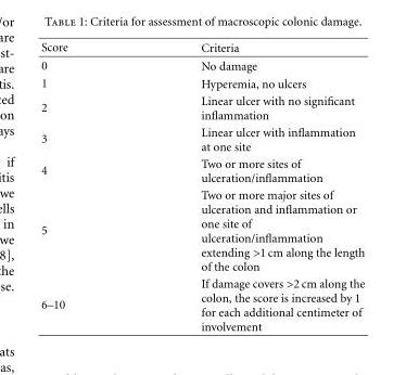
<table><thead><tr><td>Score</td><td>Criteria</td></tr></thead><tbody><tr><td>0</td><td>No damage</td></tr><tr><td>1</td><td>Hyperemia, no ulcers</td></tr><tr><td>2</td><td>Linear ulcer with no significant inflammation</td></tr><tr><td>3</td><td>Linear ulcer with inflammation at one site</td></tr><tr><td>4</td><td>Two or more sites of ulceration/inflammation</td></tr><tr><td>5</td><td>Two or more major sites of ulceration and inflammation or one site of ulceration/inflammation extending &gt;1 cm along the length of the colon</td></tr><tr><td>6–10</td><td>If damage covers &gt;2 cm along the colon, the score is increased by 1 for each additional centimeter of involvement</td></tr></tbody></table>